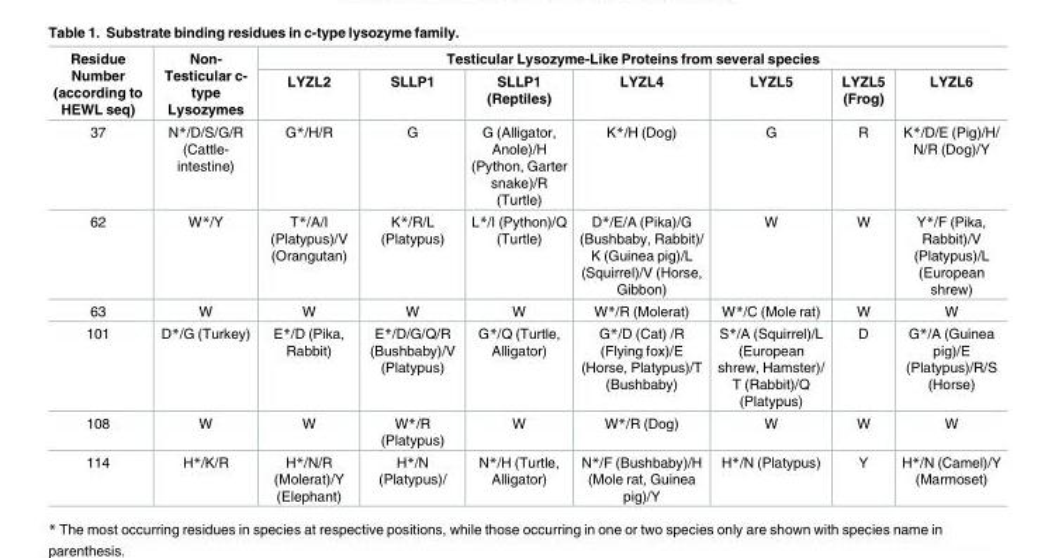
<table><thead><tr><td rowspan="2">Residue Number (according to HEWL seq)</td><td rowspan="2">Non- Testicular c- type Lysozymes</td><td colspan="7">Testicular Lysozyme-Like Proteins from several species</td></tr><tr><td>LYZL2</td><td>SLLP1</td><td>SLLP1 (Reptiles)</td><td>LYZL4</td><td>LYZL5</td><td>LYZL5 (Frog)</td><td>LYZL6</td></tr></thead><tbody><tr><td>37</td><td>N*/D/S/G/R (Cattle- intestine)</td><td>G*/H/R</td><td>G</td><td>G (Alligator, Anole)/H (Python, Garter snake)/R (Turtle)</td><td>K*/H (Dog)</td><td>G</td><td>R</td><td>K*/D/E (Pig)/H/ N/R (Dog)/Y</td></tr><tr><td>62</td><td>W*/Y</td><td>T*/A/I (Platypus)/V (Orangutan)</td><td>K*/R/L (Platypus)</td><td>L*/I (Python)/Q (Turtle)</td><td>D*/E/A (Pika)/G (Bushbaby, Rabbit)/ K (Guinea pig)/L (Squirrel)/V (Horse, Gibbon)</td><td>W</td><td>W</td><td>Y*/F (Pika, Rabbit)/V (Platypus)/L (European shrew)</td></tr><tr><td>63</td><td>W</td><td>W</td><td>W</td><td>W</td><td>W*/R (Molerat)</td><td>W*/C (Mole rat)</td><td>W</td><td>W</td></tr><tr><td>101</td><td>D*/G (Turkey)</td><td>E*/D (Pika, Rabbit)</td><td>E*/D/G/Q/R (Bushbaby)/V (Platypus)</td><td>G*/Q (Turtle, Alligator)</td><td>G*/D (Cat) /R (Flying fox)/E (Horse, Platypus)/T (Bushbaby)</td><td>S*/A (Squirrel)/L (European shrew, Hamster)/ T (Rabbit)/Q (Platypus)</td><td>D</td><td>G*/A (Guinea pig)/E (Platypus)/R/S (Horse)</td></tr><tr><td>108</td><td>W</td><td>W</td><td>W*/R (Platypus)</td><td>W</td><td>W*/R (Dog)</td><td>W</td><td>W</td><td>W</td></tr><tr><td>114</td><td>H*/K/R</td><td>H*/N/R (Molerat)/Y (Elephant)</td><td>H*/N (Platypus)/</td><td>N*/H (Turtle, Alligator)</td><td>N*/F (Bushbaby)/H (Mole rat, Guinea pig)/Y</td><td>H*/N (Platypus)</td><td>Y</td><td>H*/N (Camel)/Y (Marmoset)</td></tr></tbody></table>